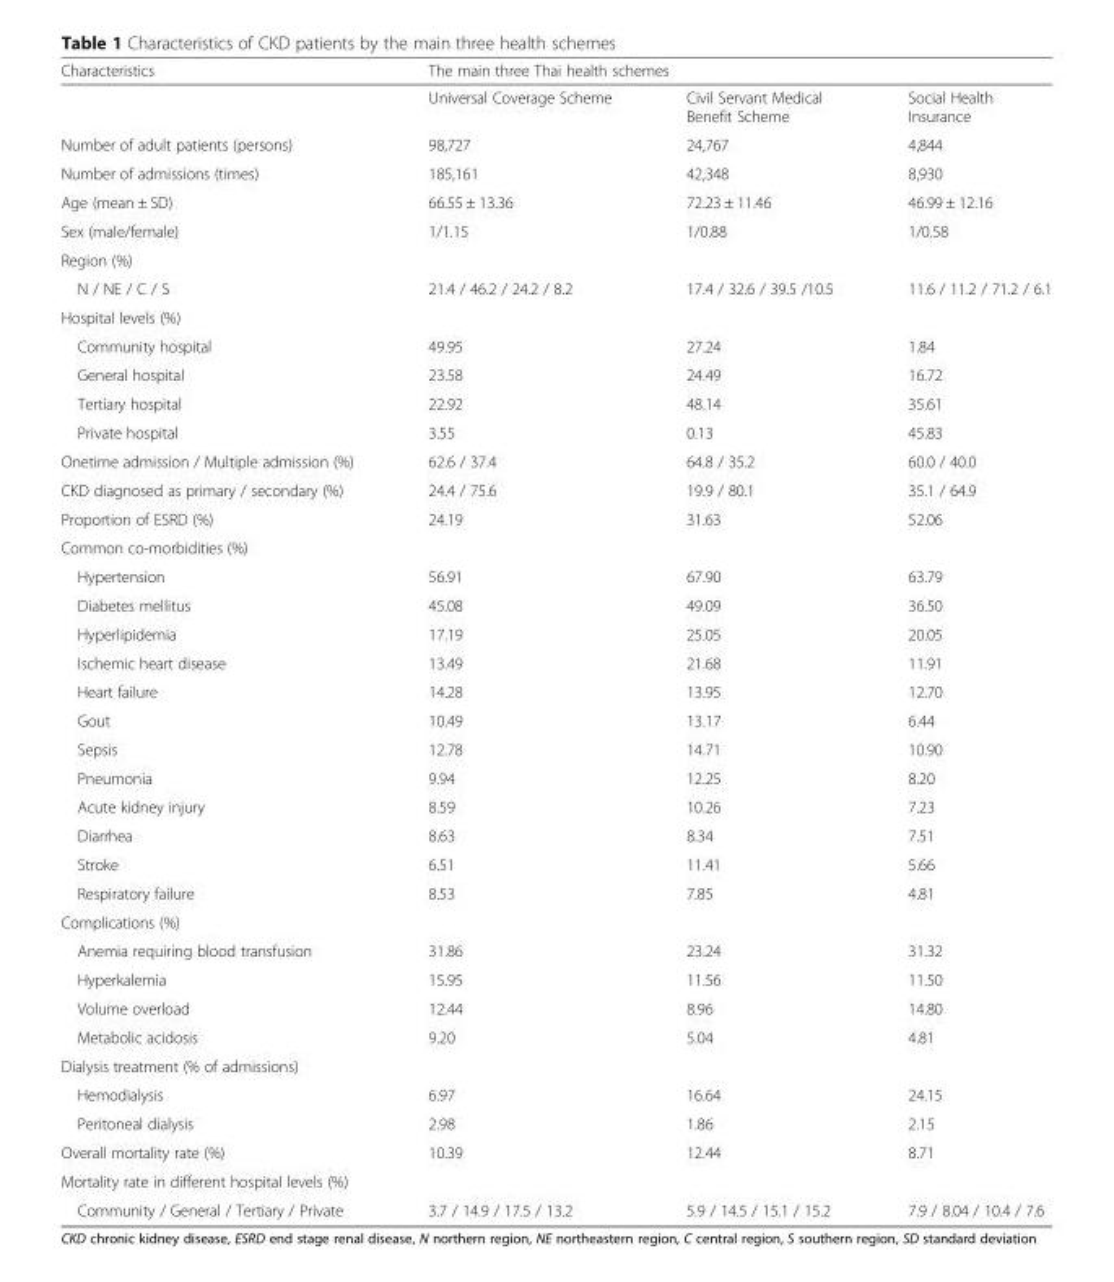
<table><thead><tr><td rowspan="2">Characteristics</td><td colspan="3">The main three Thai health schemes</td></tr><tr><td>Universal Coverage Scheme</td><td>Civil Servant Medical Benefit Scheme</td><td>Social Health Insurance</td></tr></thead><tbody><tr><td>Number of adult patients (persons)</td><td>98,727</td><td>24,767</td><td>4,844</td></tr><tr><td>Number of admissions (times)</td><td>185,161</td><td>42,348</td><td>8,930</td></tr><tr><td>Age (mean ± SD)</td><td>66.55 ± 13.36</td><td>72.23 ± 11.46</td><td>46.99 ± 12.16</td></tr><tr><td>Sex (male/female)</td><td>1/1.15</td><td>1/0.88</td><td>1/0.58</td></tr><tr><td colspan="4">Region (%)</td></tr><tr><td>N / NE / C / S</td><td>21.4 / 46.2 / 24.2 / 8.2</td><td>17.4 / 32.6 / 39.5 /10.5</td><td>11.6 / 11.2 / 71.2 / 6.1</td></tr><tr><td colspan="4">Hospital levels (%)</td></tr><tr><td>Community hospital</td><td>49.95</td><td>27.24</td><td>1.84</td></tr><tr><td>General hospital</td><td>23.58</td><td>24.49</td><td>16.72</td></tr><tr><td>Tertiary hospital</td><td>22.92</td><td>48.14</td><td>35.61</td></tr><tr><td>Private hospital</td><td>3.55</td><td>0.13</td><td>45.83</td></tr><tr><td>Onetime admission / Multiple admission (%)</td><td>62.6 / 37.4</td><td>64.8 / 35.2</td><td>60.0 / 40.0</td></tr><tr><td>CKD diagnosed as primary / secondary (%)</td><td>24.4 / 75.6</td><td>19.9 / 80.1</td><td>35.1 / 64.9</td></tr><tr><td>Proportion of ESRD (%)</td><td>24.19</td><td>31.63</td><td>52.06</td></tr><tr><td colspan="4">Common co-morbidities (%)</td></tr><tr><td>Hypertension</td><td>56.91</td><td>67.90</td><td>63.79</td></tr><tr><td>Diabetes mellitus</td><td>45.08</td><td>49.09</td><td>36.50</td></tr><tr><td>Hyperlipidemia</td><td>17.19</td><td>25.05</td><td>20.05</td></tr><tr><td>Ischemic heart disease</td><td>13.49</td><td>21.68</td><td>11.91</td></tr><tr><td>Heart failure</td><td>14.28</td><td>13.95</td><td>12.70</td></tr><tr><td>Gout</td><td>10.49</td><td>13.17</td><td>6.44</td></tr><tr><td>Sepsis</td><td>12.78</td><td>14.71</td><td>10.90</td></tr><tr><td>Pneumonia</td><td>9.94</td><td>12.25</td><td>8.20</td></tr><tr><td>Acute kidney injury</td><td>8.59</td><td>10.26</td><td>7.23</td></tr><tr><td>Diarrhea</td><td>8.63</td><td>8.34</td><td>7.51</td></tr><tr><td>Stroke</td><td>6.51</td><td>11.41</td><td>5.66</td></tr><tr><td>Respiratory failure</td><td>8.53</td><td>7.85</td><td>4.81</td></tr><tr><td colspan="4">Complications (%)</td></tr><tr><td>Anemia requiring blood transfusion</td><td>31.86</td><td>23.24</td><td>31.32</td></tr><tr><td>Hyperkalemia</td><td>15.95</td><td>11.56</td><td>11.50</td></tr><tr><td>Volume overload</td><td>12.44</td><td>8.96</td><td>14.80</td></tr><tr><td>Metabolic acidosis</td><td>9.20</td><td>5.04</td><td>4.81</td></tr><tr><td colspan="4">Dialysis treatment (% of admissions)</td></tr><tr><td>Hemodialysis</td><td>6.97</td><td>16.64</td><td>24.15</td></tr><tr><td>Peritoneal dialysis</td><td>2.98</td><td>1.86</td><td>2.15</td></tr><tr><td>Overall mortality rate (%)</td><td>10.39</td><td>12.44</td><td>8.71</td></tr><tr><td colspan="4">Mortality rate in different hospital levels (%)</td></tr><tr><td>Community / General / Tertiary / Private</td><td>3.7 / 14.9 / 17.5 / 13.2</td><td>5.9 / 14.5 / 15.1 / 15.2</td><td>7.9 / 8.04 / 10.4 / 7.6</td></tr></tbody></table>